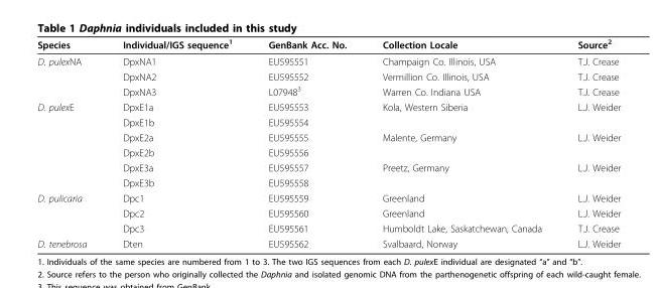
<table><thead><tr><td>Species</td><td>Individual/IGS sequence<sup>1</sup></td><td>GenBank Acc. No.</td><td>Collection Locale</td><td>Source<sup>2</sup></td></tr></thead><tbody><tr><td rowspan="3">D. pulexNA</td><td>DpxNA1</td><td>EU595551</td><td>Champaign Co. Illinois, USA</td><td>T.J. Crease</td></tr><tr><td>DpxNA2</td><td>EU595552</td><td>Vermillion Co. Illinois, USA</td><td>T.J. Crease</td></tr><tr><td>DpxNA3</td><td>L07948<sup>3</sup></td><td>Warren Co. Indiana USA</td><td>T.J. Crease</td></tr><tr><td rowspan="6">D. pulexE</td><td>DpxE1a</td><td>EU595553</td><td>Kola, Western Siberia</td><td>L.J. Weider</td></tr><tr><td>DpxE1b</td><td>EU595554</td><td></td><td></td></tr><tr><td>DpxE2a</td><td>EU595555</td><td>Malente, Germany</td><td>L.J. Weider</td></tr><tr><td>DpxE2b</td><td>EU595556</td><td></td><td></td></tr><tr><td>DpxE3a</td><td>EU595557</td><td>Preetz, Germany</td><td>L.J. Weider</td></tr><tr><td>DpxE3b</td><td>EU595558</td><td></td><td></td></tr><tr><td rowspan="3">D. pulicaria</td><td>Dpc1</td><td>EU595559</td><td>Greenland</td><td>L.J. Weider</td></tr><tr><td>Dpc2</td><td>EU595560</td><td>Greenland</td><td>L.J. Weider</td></tr><tr><td>Dpc3</td><td>EU595561</td><td>Humboldt Lake, Saskatchewan, Canada</td><td>T.J. Crease</td></tr><tr><td>D. tenebrosa</td><td>Dten</td><td>EU595562</td><td>Svalbaard, Norway</td><td>L.J. Weider</td></tr></tbody></table>